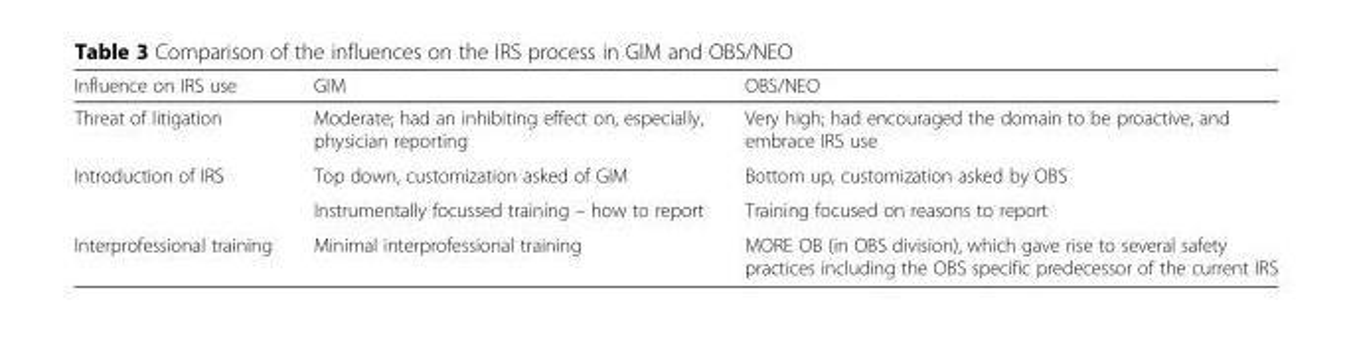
<table><thead><tr><td>Influence on IRS use</td><td>GIM</td><td>OBS/NEO</td></tr></thead><tbody><tr><td>Threat of litigation</td><td>Moderate; had an inhibiting effect on, especially, physician reporting</td><td>Very high; had encouraged the domain to be proactive, and embrace IRS use</td></tr><tr><td rowspan="2">Introduction of IRS</td><td>Top down, customization asked of GIM</td><td>Bottom up, customization asked by OBS</td></tr><tr><td>Instrumentally focussed training – how to report</td><td>Training focused on reasons to report</td></tr><tr><td>Interprofessional training</td><td>Minimal interprofessional training</td><td>MORE OB (in OBS division), which gave rise to several safety practices including the OBS specific predecessor of the current IRS</td></tr></tbody></table>